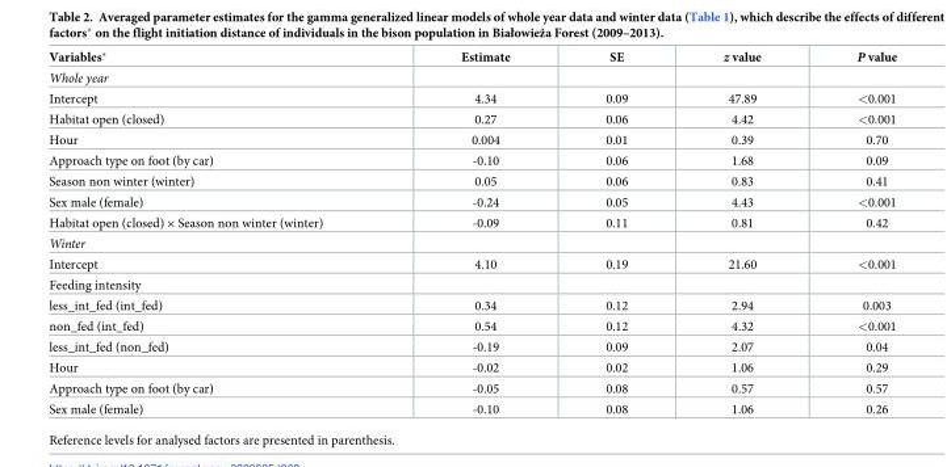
<table><thead><tr><td>Variables*</td><td>Estimate</td><td>SE</td><td>z value</td><td>P value</td></tr></thead><tbody><tr><td colspan="5">Whole year</td></tr><tr><td>Intercept</td><td>4.34</td><td>0.09</td><td>47.89</td><td>&lt;0.001</td></tr><tr><td>Habitat open (closed)</td><td>0.27</td><td>0.06</td><td>4.42</td><td>&lt;0.001</td></tr><tr><td>Hour</td><td>0.004</td><td>0.01</td><td>0.39</td><td>0.70</td></tr><tr><td>Approach type on foot (by car)</td><td>-0.10</td><td>0.06</td><td>1.68</td><td>0.09</td></tr><tr><td>Season non winter (winter)</td><td>0.05</td><td>0.06</td><td>0.83</td><td>0.41</td></tr><tr><td>Sex male (female)</td><td>-0.24</td><td>0.05</td><td>4.43</td><td>&lt;0.001</td></tr><tr><td>Habitat open (closed) × Season non winter (winter)</td><td>-0.09</td><td>0.11</td><td>0.81</td><td>0.42</td></tr><tr><td colspan="5">Winter</td></tr><tr><td>Intercept</td><td>4.10</td><td>0.19</td><td>21.60</td><td>&lt;0.001</td></tr><tr><td colspan="5">Feeding intensity</td></tr><tr><td>less_int_fed (int_fed)</td><td>0.34</td><td>0.12</td><td>2.94</td><td>0.003</td></tr><tr><td>non_fed (int_fed)</td><td>0.54</td><td>0.12</td><td>4.32</td><td>&lt;0.001</td></tr><tr><td>less_int_fed (non_fed)</td><td>-0.19</td><td>0.09</td><td>2.07</td><td>0.04</td></tr><tr><td>Hour</td><td>-0.02</td><td>0.02</td><td>1.06</td><td>0.29</td></tr><tr><td>Approach type on foot (by car)</td><td>-0.05</td><td>0.08</td><td>0.57</td><td>0.57</td></tr><tr><td>Sex male (female)</td><td>-0.10</td><td>0.08</td><td>1.06</td><td>0.26</td></tr></tbody></table>